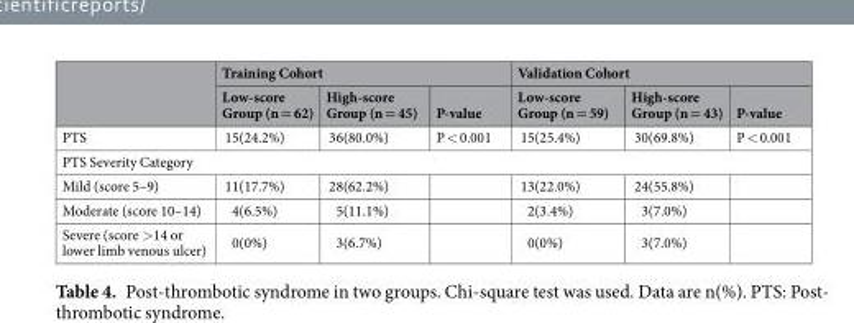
<table><thead><tr><td rowspan="2"></td><td colspan="3">Training Cohort</td><td colspan="3">Validation Cohort</td></tr><tr><td>Low-score Group (n = 62)</td><td>High-score Group (n = 45)</td><td>P-value</td><td>Low-score Group (n = 59)</td><td>High-score Group (n = 43)</td><td>P-value</td></tr></thead><tbody><tr><td>PTS</td><td>15(24.2%)</td><td>36(80.0%)</td><td>P &lt; 0.001</td><td>15(25.4%)</td><td>30(69.8%)</td><td>P &lt; 0.001</td></tr><tr><td colspan="7">PTS Severity Category</td></tr><tr><td>Mild (score 5–9)</td><td>11(17.7%)</td><td>28(62.2%)</td><td></td><td>13(22.0%)</td><td>24(55.8%)</td><td></td></tr><tr><td>Moderate (score 10–14)</td><td>4(6.5%)</td><td>5(11.1%)</td><td></td><td>2(3.4%)</td><td>3(7.0%)</td><td></td></tr><tr><td>Severe (score &gt;14 or lower limb venous ulcer)</td><td>0(0%)</td><td>3(6.7%)</td><td></td><td>0(0%)</td><td>3(7.0%)</td><td></td></tr></tbody></table>